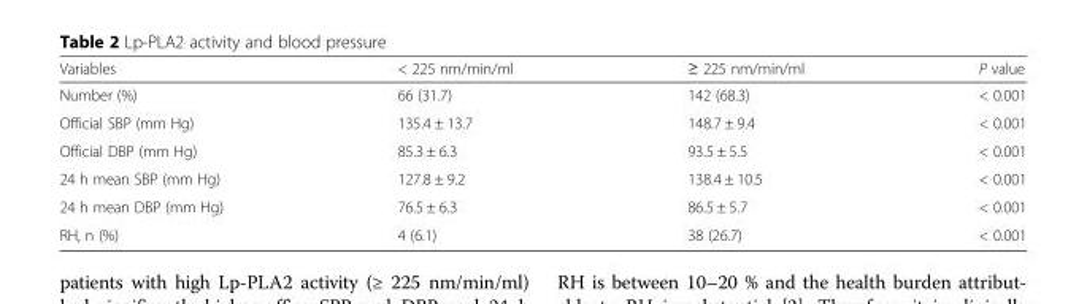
<table><thead><tr><td>Variables</td><td>&lt; 225 nm/min/ml</td><td>≥ 225 nm/min/ml</td><td>P value</td></tr></thead><tbody><tr><td>Number (%)</td><td>66 (31.7)</td><td>142 (68.3)</td><td>&lt; 0.001</td></tr><tr><td>Official SBP (mm Hg)</td><td>135.4 ± 13.7</td><td>148.7 ± 9.4</td><td>&lt; 0.001</td></tr><tr><td>Official DBP (mm Hg)</td><td>85.3 ± 6.3</td><td>93.5 ± 5.5</td><td>&lt; 0.001</td></tr><tr><td>24 h mean SBP (mm Hg)</td><td>127.8 ± 9.2</td><td>138.4 ± 10.5</td><td>&lt; 0.001</td></tr><tr><td>24 h mean DBP (mm Hg)</td><td>76.5 ± 6.3</td><td>86.5 ± 5.7</td><td>&lt; 0.001</td></tr><tr><td>RH, n (%)</td><td>4 (6.1)</td><td>38 (26.7)</td><td>&lt; 0.001</td></tr></tbody></table>